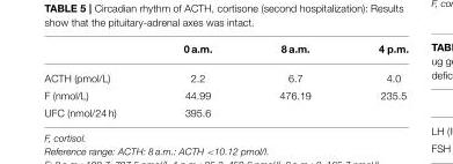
<table><thead><tr><td></td><td>0 a.m.</td><td>8 a.m.</td><td>4 p.m.</td></tr></thead><tbody><tr><td>ACTH (pmol/L)</td><td>2.2</td><td>6.7</td><td>4.0</td></tr><tr><td>F (nmol/L)</td><td>44.99</td><td>476.19</td><td>235.5</td></tr><tr><td>UFC (nmol/24 h)</td><td>395.6</td><td></td><td></td></tr></tbody></table>